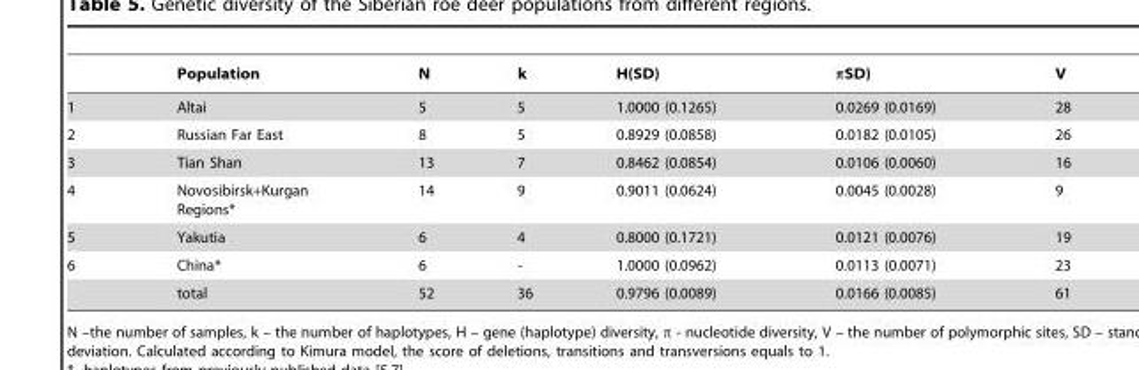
<table><thead><tr><td></td><td>Population</td><td>N</td><td>k</td><td>H(SD)</td><td>πSD)</td><td>V</td></tr></thead><tbody><tr><td>1</td><td>Altai</td><td>5</td><td>5</td><td>1.0000 (0.1265)</td><td>0.0269 (0.0169)</td><td>28</td></tr><tr><td>2</td><td>Russian Far East</td><td>8</td><td>5</td><td>0.8929 (0.0858)</td><td>0.0182 (0.0105)</td><td>26</td></tr><tr><td>3</td><td>Tian Shan</td><td>13</td><td>7</td><td>0.8462 (0.0854)</td><td>0.0106 (0.0060)</td><td>16</td></tr><tr><td>4</td><td>Novosibirsk+Kurgan Regions*</td><td>14</td><td>9</td><td>0.9011 (0.0624)</td><td>0.0045 (0.0028)</td><td>9</td></tr><tr><td>5</td><td>Yakutia</td><td>6</td><td>4</td><td>0.8000 (0.1721)</td><td>0.0121 (0.0076)</td><td>19</td></tr><tr><td rowspan="2">6</td><td>China*</td><td>6</td><td>-</td><td>1.0000 (0.0962)</td><td>0.0113 (0.0071)</td><td>23</td></tr><tr><td>total</td><td>52</td><td>36</td><td>0.9796 (0.0089)</td><td>0.0166 (0.0085)</td><td>61</td></tr></tbody></table>